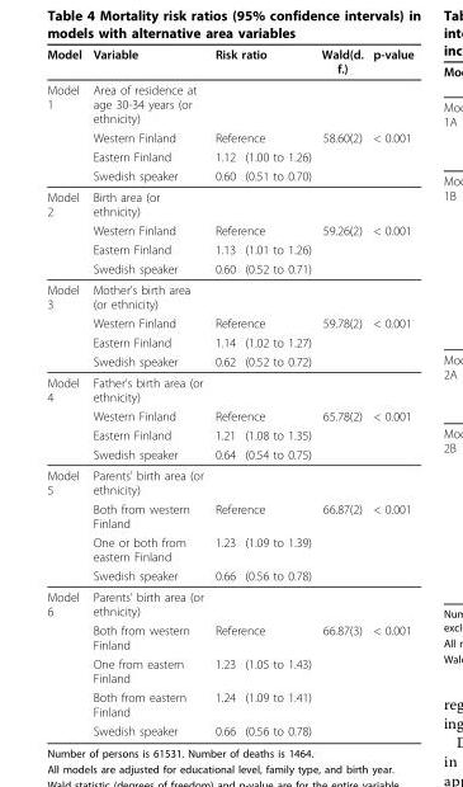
<table><thead><tr><td rowspan="2">Model Model 1</td><td rowspan="2">Variable Area of residence at age 30-34 years (or ethnicity)</td><td colspan="2">Risk ratio</td><td rowspan="2">Wald(d. f.)</td><td rowspan="2">p-value</td></tr><tr><td></td><td></td></tr></thead><tbody><tr><td></td><td>Western Finland</td><td colspan="2">Reference</td><td>58.60(2)</td><td>&lt; 0.001</td></tr><tr><td></td><td>Eastern Finland</td><td>1.12</td><td>(1.00 to 1.26)</td><td></td><td></td></tr><tr><td></td><td>Swedish speaker</td><td>0.60</td><td>(0.51 to 0.70)</td><td></td><td></td></tr><tr><td rowspan="4">Model 2</td><td>Birth area (or ethnicity)</td><td></td><td></td><td></td><td></td></tr><tr><td>Western Finland</td><td colspan="2">Reference</td><td>59.26(2)</td><td>&lt; 0.001</td></tr><tr><td>Eastern Finland</td><td>1.13</td><td>(1.01 to 1.26)</td><td></td><td></td></tr><tr><td>Swedish speaker</td><td>0.60</td><td>(0.52 to 0.71)</td><td></td><td></td></tr><tr><td rowspan="4">Model 3</td><td>Mother’s birth area (or ethnicity)</td><td></td><td></td><td></td><td></td></tr><tr><td>Western Finland</td><td colspan="2">Reference</td><td>59.78(2)</td><td>&lt; 0.001</td></tr><tr><td>Eastern Finland</td><td>1.14</td><td>(1.02 to 1.27)</td><td></td><td></td></tr><tr><td>Swedish speaker</td><td>0.62</td><td>(0.52 to 0.72)</td><td></td><td></td></tr><tr><td rowspan="4">Model 4</td><td>Father’s birth area (or ethnicity)</td><td></td><td></td><td></td><td></td></tr><tr><td>Western Finland</td><td colspan="2">Reference</td><td>65.78(2)</td><td>&lt; 0.001</td></tr><tr><td>Eastern Finland</td><td>1.21</td><td>(1.08 to 1.35)</td><td></td><td></td></tr><tr><td>Swedish speaker</td><td>0.64</td><td>(0.54 to 0.75)</td><td></td><td></td></tr><tr><td rowspan="4">Model 5</td><td>Parents’ birth area (or ethnicity)</td><td></td><td></td><td></td><td></td></tr><tr><td>Both from western Finland</td><td colspan="2">Reference</td><td>66.87(2)</td><td>&lt; 0.001</td></tr><tr><td>One or both from eastern Finland</td><td>1.23</td><td>(1.09 to 1.39)</td><td></td><td></td></tr><tr><td>Swedish speaker</td><td>0.66</td><td>(0.56 to 0.78)</td><td></td><td></td></tr><tr><td rowspan="5">Model 6</td><td>Parents’ birth area (or ethnicity)</td><td></td><td></td><td></td><td></td></tr><tr><td>Both from western Finland</td><td colspan="2">Reference</td><td>66.87(3)</td><td>&lt; 0.001</td></tr><tr><td>One from eastern Finland</td><td>1.23</td><td>(1.05 to 1.43)</td><td></td><td></td></tr><tr><td>Both from eastern Finland</td><td>1.24</td><td>(1.09 to 1.41)</td><td></td><td></td></tr><tr><td>Swedish speaker</td><td>0.66</td><td>(0.56 to 0.78)</td><td></td><td></td></tr></tbody></table>